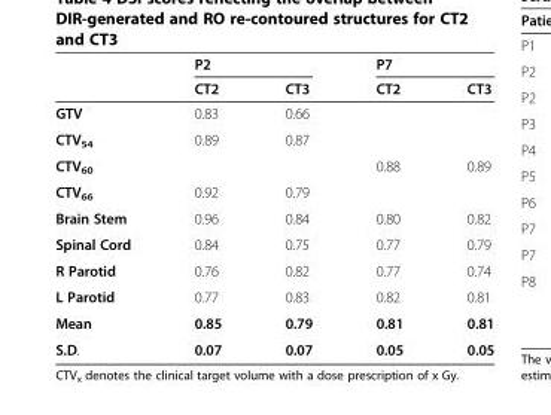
<table><thead><tr><td rowspan="2"></td><td colspan="2">P2</td><td colspan="2">P7</td></tr><tr><td>CT2</td><td>CT3</td><td>CT2</td><td>CT3</td></tr></thead><tbody><tr><td>GTV</td><td>0.83</td><td>0.66</td><td></td><td></td></tr><tr><td>CTV<sub>54</sub></td><td>0.89</td><td>0.87</td><td></td><td></td></tr><tr><td>CTV<sub>60</sub></td><td></td><td></td><td>0.88</td><td>0.89</td></tr><tr><td>CTV<sub>66</sub></td><td>0.92</td><td>0.79</td><td></td><td></td></tr><tr><td>Brain Stem</td><td>0.96</td><td>0.84</td><td>0.80</td><td>0.82</td></tr><tr><td>Spinal Cord</td><td>0.84</td><td>0.75</td><td>0.77</td><td>0.79</td></tr><tr><td>R Parotid</td><td>0.76</td><td>0.82</td><td>0.77</td><td>0.74</td></tr><tr><td>L Parotid</td><td>0.77</td><td>0.83</td><td>0.82</td><td>0.81</td></tr><tr><td>Mean</td><td>0.85</td><td>0.79</td><td>0.81</td><td>0.81</td></tr><tr><td>S.D.</td><td>0.07</td><td>0.07</td><td>0.05</td><td>0.05</td></tr></tbody></table>